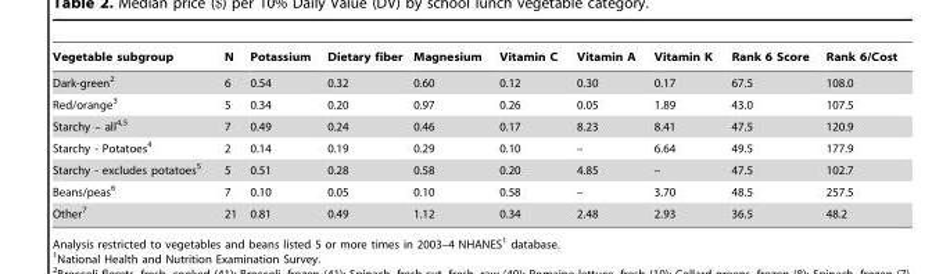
<table><thead><tr><td>Vegetable subgroup</td><td>N</td><td>Potassium</td><td>Dietary fiber</td><td>Magnesium</td><td>Vitamin C</td><td>Vitamin A</td><td>Vitamin K</td><td>Rank 6 Score</td><td>Rank 6/Cost</td></tr></thead><tbody><tr><td>Dark-green<sup>2</sup></td><td>6</td><td>0.54</td><td>0.32</td><td>0.60</td><td>0.12</td><td>0.30</td><td>0.17</td><td>67.5</td><td>108.0</td></tr><tr><td>Red/orange<sup>3</sup></td><td>5</td><td>0.34</td><td>0.20</td><td>0.97</td><td>0.26</td><td>0.05</td><td>1.89</td><td>43.0</td><td>107.5</td></tr><tr><td>Starchy – all<sup>4,5</sup></td><td>7</td><td>0.49</td><td>0.24</td><td>0.46</td><td>0.17</td><td>8.23</td><td>8.41</td><td>47.5</td><td>120.9</td></tr><tr><td>Starchy - Potatoes<sup>4</sup></td><td>2</td><td>0.14</td><td>0.19</td><td>0.29</td><td>0.10</td><td>–</td><td>6.64</td><td>49.5</td><td>177.9</td></tr><tr><td>Starchy - excludes potatoes<sup>5</sup></td><td>5</td><td>0.51</td><td>0.28</td><td>0.58</td><td>0.20</td><td>4.85</td><td>–</td><td>47.5</td><td>102.7</td></tr><tr><td>Beans/peas<sup>6</sup></td><td>7</td><td>0.10</td><td>0.05</td><td>0.10</td><td>0.58</td><td>–</td><td>3.70</td><td>48.5</td><td>257.5</td></tr><tr><td>Other<sup>7</sup></td><td>21</td><td>0.81</td><td>0.49</td><td>1.12</td><td>0.34</td><td>2.48</td><td>2.93</td><td>36.5</td><td>48.2</td></tr></tbody></table>